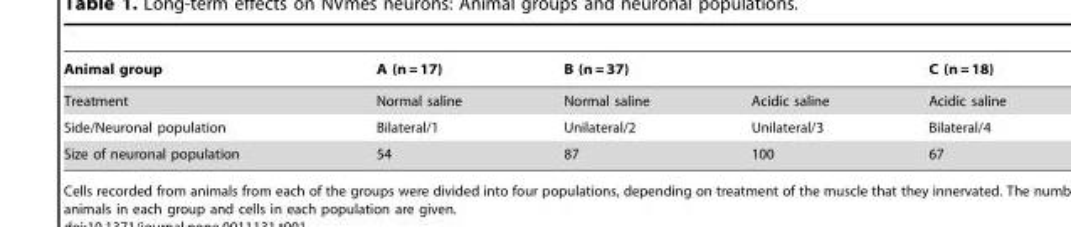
<table><thead><tr><td rowspan="2">Animal group Treatment</td><td rowspan="2">A (n = 17) Normal saline</td><td colspan="2">B (n = 37)</td><td rowspan="2">C (n = 18) Acidic saline</td></tr><tr><td>Normal saline</td><td>Acidic saline</td></tr></thead><tbody><tr><td>Side/Neuronal population</td><td>Bilateral/1</td><td>Unilateral/2</td><td>Unilateral/3</td><td>Bilateral/4</td></tr><tr><td>Size of neuronal population</td><td>54</td><td>87</td><td>100</td><td>67</td></tr></tbody></table>